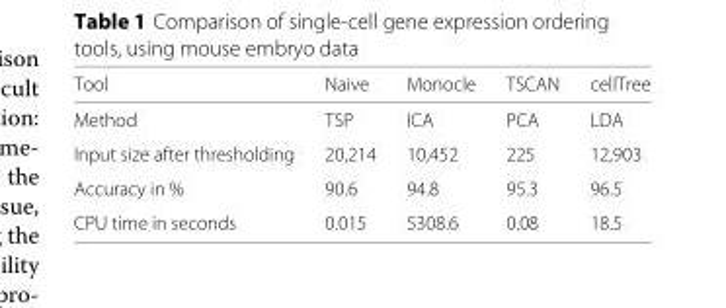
<table><thead><tr><td>Tool</td><td>Naive</td><td>Monocle</td><td>TSCAN</td><td>cellTree</td></tr></thead><tbody><tr><td>Method</td><td>TSP</td><td>ICA</td><td>PCA</td><td>LDA</td></tr><tr><td>Input size after thresholding</td><td>20,214</td><td>10,452</td><td>225</td><td>12,903</td></tr><tr><td>Accuracy in %</td><td>90.6</td><td>94.8</td><td>95.3</td><td>96.5</td></tr><tr><td>CPU time in seconds</td><td>0.015</td><td>5308.6</td><td>0.08</td><td>18.5</td></tr></tbody></table>